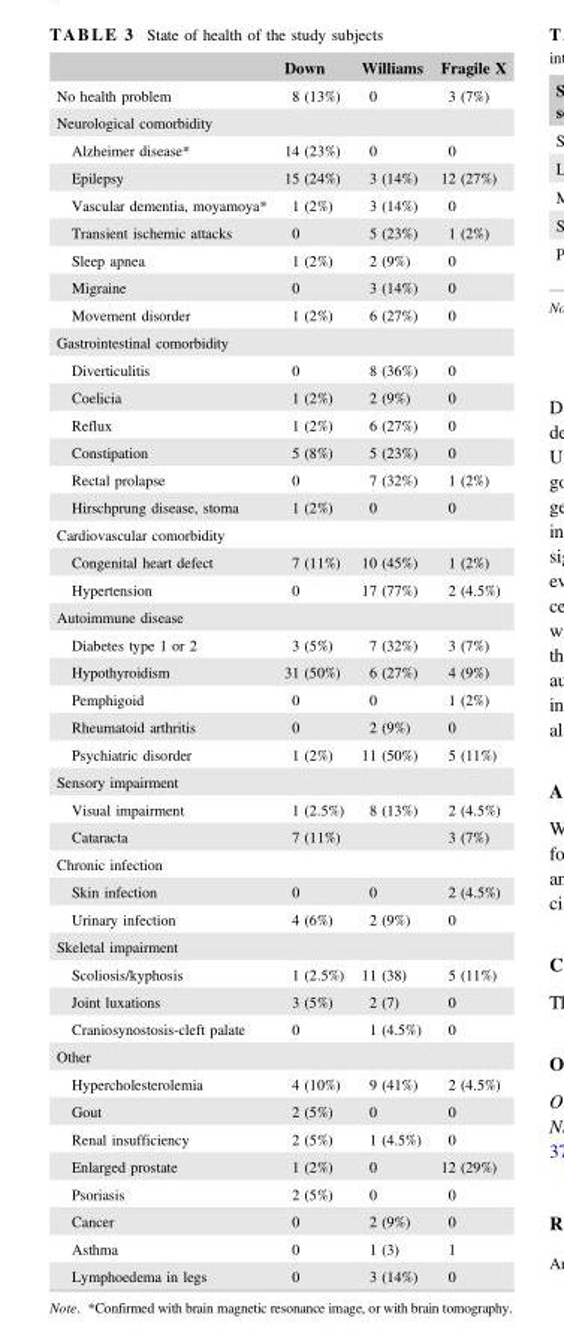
<table><thead><tr><td></td><td>Down</td><td>Williams</td><td>Fragile X</td></tr></thead><tbody><tr><td>No health problem</td><td>8 (13%)</td><td>0</td><td>3 (7%)</td></tr><tr><td colspan="4">Neurological comorbidity</td></tr><tr><td>Alzheimer disease*</td><td>14 (23%)</td><td>0</td><td>0</td></tr><tr><td>Epilepsy</td><td>15 (24%)</td><td>3 (14%)</td><td>12 (27%)</td></tr><tr><td>Vascular dementia, moyamoya*</td><td>1 (2%)</td><td>3 (14%)</td><td>0</td></tr><tr><td>Transient ischemic attacks</td><td>0</td><td>5 (23%)</td><td>1 (2%)</td></tr><tr><td>Sleep apnea</td><td>1 (2%)</td><td>2 (9%)</td><td>0</td></tr><tr><td>Migraine</td><td>0</td><td>3 (14%)</td><td>0</td></tr><tr><td>Movement disorder</td><td>1 (2%)</td><td>6 (27%)</td><td>0</td></tr><tr><td colspan="4">Gastrointestinal comorbidity</td></tr><tr><td>Diverticulitis</td><td>0</td><td>8 (36%)</td><td>0</td></tr><tr><td>Coelicia</td><td>1 (2%)</td><td>2 (9%)</td><td>0</td></tr><tr><td>Reflux</td><td>1 (2%)</td><td>6 (27%)</td><td>0</td></tr><tr><td>Constipation</td><td>5 (8%)</td><td>5 (23%)</td><td>0</td></tr><tr><td>Rectal prolapse</td><td>0</td><td>7 (32%)</td><td>1 (2%)</td></tr><tr><td>Hirschprung disease, stoma</td><td>1 (2%)</td><td>0</td><td>0</td></tr><tr><td colspan="4">Cardiovascular comorbidity</td></tr><tr><td>Congenital heart defect</td><td>7 (11%)</td><td>10 (45%)</td><td>1 (2%)</td></tr><tr><td>Hypertension</td><td>0</td><td>17 (77%)</td><td>2 (4.5%)</td></tr><tr><td colspan="4">Autoimmune disease</td></tr><tr><td>Diabetes type 1 or 2</td><td>3 (5%)</td><td>7 (32%)</td><td>3 (7%)</td></tr><tr><td>Hypothyroidism</td><td>31 (50%)</td><td>6 (27%)</td><td>4 (9%)</td></tr><tr><td>Pemphigoid</td><td>0</td><td>0</td><td>1 (2%)</td></tr><tr><td>Rheumatoid arthritis</td><td>0</td><td>2 (9%)</td><td>0</td></tr><tr><td>Psychiatric disorder</td><td>1 (2%)</td><td>11 (50%)</td><td>5 (11%)</td></tr><tr><td colspan="4">Sensory impairment</td></tr><tr><td>Visual impairment</td><td>1 (2.5%)</td><td>8 (13%)</td><td>2 (4.5%)</td></tr><tr><td>Cataracta</td><td>7 (11%)</td><td></td><td>3 (7%)</td></tr><tr><td colspan="4">Chronic infection</td></tr><tr><td>Skin infection</td><td>0</td><td>0</td><td>2 (4.5%)</td></tr><tr><td>Urinary infection</td><td>4 (6%)</td><td>2 (9%)</td><td>0</td></tr><tr><td colspan="4">Skeletal impairment</td></tr><tr><td>Scoliosis/kyphosis</td><td>1 (2.5%)</td><td>11 (38)</td><td>5 (11%)</td></tr><tr><td>Joint luxations</td><td>3 (5%)</td><td>2 (7)</td><td>0</td></tr><tr><td>Craniosynostosis‐cleft palate</td><td>0</td><td>1 (4.5%)</td><td>0</td></tr><tr><td colspan="4">Other</td></tr><tr><td>Hypercholesterolemia</td><td>4 (10%)</td><td>9 (41%)</td><td>2 (4.5%)</td></tr><tr><td>Gout</td><td>2 (5%)</td><td>0</td><td>0</td></tr><tr><td>Renal insufficiency</td><td>2 (5%)</td><td>1 (4.5%)</td><td>0</td></tr><tr><td>Enlarged prostate</td><td>1 (2%)</td><td>0</td><td>12 (29%)</td></tr><tr><td>Psoriasis</td><td>2 (5%)</td><td>0</td><td>0</td></tr><tr><td>Cancer</td><td>0</td><td>2 (9%)</td><td>0</td></tr><tr><td>Asthma</td><td>0</td><td>1 (3)</td><td>1</td></tr><tr><td>Lymphoedema in legs</td><td>0</td><td>3 (14%)</td><td>0</td></tr></tbody></table>